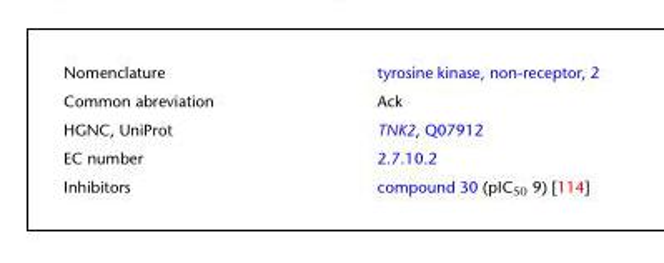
<table><tbody><tr><td>Nomenclature</td><td>tyrosine kinase, non-receptor, 2</td></tr><tr><td>Common abreviation</td><td>Ack</td></tr><tr><td>HGNC, UniProt</td><td>TNK2, Q07912</td></tr><tr><td>EC number</td><td>2.7.10.2</td></tr><tr><td>Inhibitors</td><td>compound 30 (pIC<sub>50</sub> 9) [114]</td></tr></tbody></table>